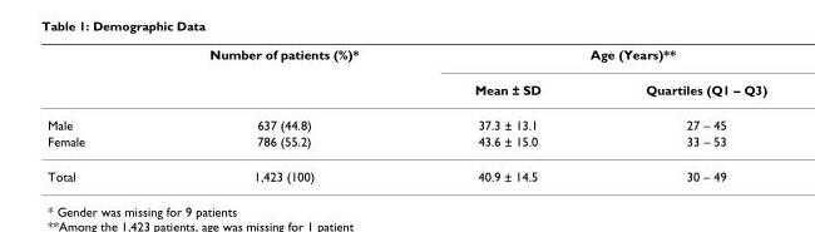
<table><thead><tr><td rowspan="2"></td><td rowspan="2">Number of patients (%)*</td><td colspan="2">Age (Years)**</td></tr><tr><td>Mean ± SD</td><td>Quartiles (Q1 – Q3)</td></tr></thead><tbody><tr><td>Male</td><td>637 (44.8)</td><td>37.3 ± 13.1</td><td>27 – 45</td></tr><tr><td>Female</td><td>786 (55.2)</td><td>43.6 ± 15.0</td><td>33 – 53</td></tr><tr><td>Total</td><td>1,423 (100)</td><td>40.9 ± 14.5</td><td>30 – 49</td></tr></tbody></table>